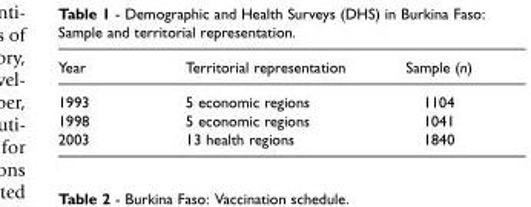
<table><thead><tr><td>Year</td><td>Territorial representation</td><td>Sample (n)</td></tr></thead><tbody><tr><td>1993</td><td>5 economic regions</td><td>1104</td></tr><tr><td>1998</td><td>5 economic regions</td><td>1041</td></tr><tr><td>2003</td><td>13 health regions</td><td>1840</td></tr></tbody></table>